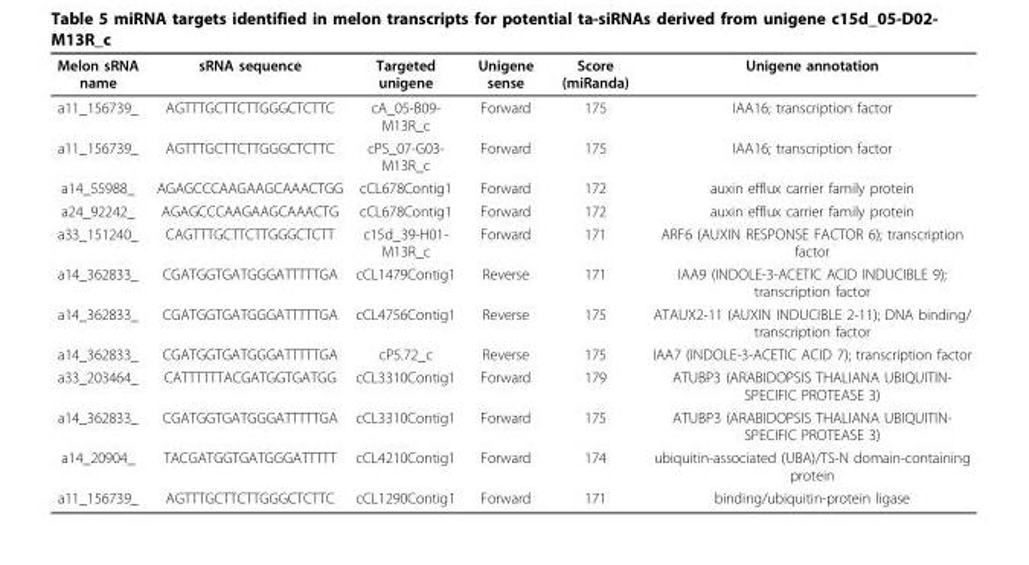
<table><thead><tr><td>Melon sRNA name</td><td>sRNA sequence</td><td>Targeted unigene</td><td>Unigene sense</td><td>Score (miRanda)</td><td>Unigene annotation</td></tr></thead><tbody><tr><td>a11_156739_</td><td>AGTTTGCTTCTTGGGCTCTTC</td><td>cA_05-B09- M13R_c</td><td>Forward</td><td>175</td><td>IAA16; transcription factor</td></tr><tr><td>a11_156739_</td><td>AGTTTGCTTCTTGGGCTCTTC</td><td>cPS_07-G03- M13R_c</td><td>Forward</td><td>175</td><td>IAA16; transcription factor</td></tr><tr><td>a14_55988_</td><td>AGAGCCCAAGAAGCAAACTGG</td><td>cCL678Contig1</td><td>Forward</td><td>172</td><td>auxin efflux carrier family protein</td></tr><tr><td>a24_92242_</td><td>AGAGCCCAAGAAGCAAACTG</td><td>cCL678Contig1</td><td>Forward</td><td>172</td><td>auxin efflux carrier family protein</td></tr><tr><td>a33_151240_</td><td>CAGTTTGCTTCTTGGGCTCTT</td><td>c15d_39-H01- M13R_c</td><td>Forward</td><td>171</td><td>ARF6 (AUXIN RESPONSE FACTOR 6); transcription factor</td></tr><tr><td>a14_362833_</td><td>CGATGGTGATGGGATTTTTGA</td><td>cCL1479Contig1</td><td>Reverse</td><td>171</td><td>IAA9 (INDOLE-3-ACETIC ACID INDUCIBLE 9); transcription factor</td></tr><tr><td>a14_362833_</td><td>CGATGGTGATGGGATTTTTGA</td><td>cCL4756Contig1</td><td>Reverse</td><td>175</td><td>ATAUX2-11 (AUXIN INDUCIBLE 2-11); DNA binding/ transcription factor</td></tr><tr><td>a14_362833_</td><td>CGATGGTGATGGGATTTTTGA</td><td>cP5.72_c</td><td>Reverse</td><td>175</td><td>IAA7 (INDOLE-3-ACETIC ACID 7); transcription factor</td></tr><tr><td>a33_203464_</td><td>CATTTTTTACGATGGTGATGG</td><td>cCL3310Contig1</td><td>Forward</td><td>179</td><td>ATUBP3 (ARABIDOPSIS THALIANA UBIQUITIN- SPECIFIC PROTEASE 3)</td></tr><tr><td>a14_362833_</td><td>CGATGGTGATGGGATTTTTGA</td><td>cCL3310Contig1</td><td>Forward</td><td>175</td><td>ATUBP3 (ARABIDOPSIS THALIANA UBIQUITIN- SPECIFIC PROTEASE 3)</td></tr><tr><td>a14_20904_</td><td>TACGATGGTGATGGGATTTTT</td><td>cCL4210Contig1</td><td>Forward</td><td>174</td><td>ubiquitin-associated (UBA)/TS-N domain-containing protein</td></tr><tr><td>a11_156739_</td><td>AGTTTGCTTCTTGGGCTCTTC</td><td>cCL1290Contig1</td><td>Forward</td><td>171</td><td>binding/ubiquitin-protein ligase</td></tr></tbody></table>